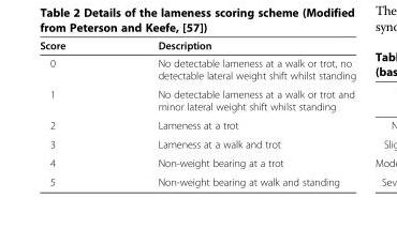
<table><thead><tr><td>Score</td><td>Description</td></tr></thead><tbody><tr><td>0</td><td>No detectable lameness at a walk or trot, no detectable lateral weight shift whilst standing</td></tr><tr><td>1</td><td>No detectable lameness at a walk or trot and minor lateral weight shift whilst standing</td></tr><tr><td>2</td><td>Lameness at a trot</td></tr><tr><td>3</td><td>Lameness at a walk and trot</td></tr><tr><td>4</td><td>Non-weight bearing at a trot</td></tr><tr><td>5</td><td>Non-weight bearing at walk and standing</td></tr></tbody></table>